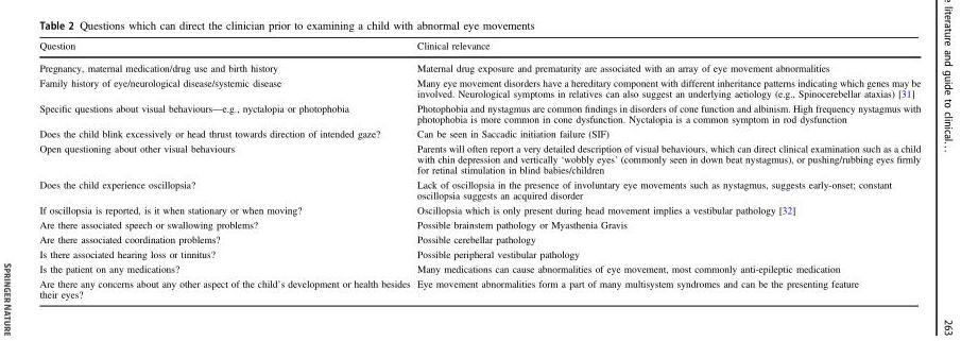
<table><thead><tr><td>Question</td><td>Clinical relevance</td></tr></thead><tbody><tr><td>Pregnancy, maternal medication/drug use and birth history</td><td>Maternal drug exposure and prematurity are associated with an array of eye movement abnormalities</td></tr><tr><td>Family history of eye/neurological disease/systemic disease</td><td>Many eye movement disorders have a hereditary component with different inheritance patterns indicating which genes may be involved. Neurological symptoms in relatives can also suggest an underlying aetiology (e.g., Spinocerebellar ataxias) [31]</td></tr><tr><td>Specific questions about visual behaviours—e.g., nyctalopia or photophobia</td><td>Photophobia and nystagmus are common findings in disorders of cone function and albinism. High frequency nystagmus with photophobia is more common in cone dysfunction. Nyctalopia is a common symptom in rod dysfunction</td></tr><tr><td>Does the child blink excessively or head thrust towards direction of intended gaze?</td><td>Can be seen in Saccadic initiation failure (SIF)</td></tr><tr><td>Open questioning about other visual behaviours</td><td>Parents will often report a very detailed description of visual behaviours, which can direct clinical examination such as a child with chin depression and vertically ‘wobbly eyes’ (commonly seen in down beat nystagmus), or pushing/rubbing eyes firmly for retinal stimulation in blind babies/children</td></tr><tr><td>Does the child experience oscillopsia?</td><td>Lack of oscillopsia in the presence of involuntary eye movements such as nystagmus, suggests early-onset; constant oscillopsia suggests an acquired disorder</td></tr><tr><td>If oscillopsia is reported, is it when stationary or when moving?</td><td>Oscillopsia which is only present during head movement implies a vestibular pathology [32]</td></tr><tr><td>Are there associated speech or swallowing problems?</td><td>Possible brainstem pathology or Myasthenia Gravis</td></tr><tr><td>Are there associated coordination problems?</td><td>Possible cerebellar pathology</td></tr><tr><td>Is there associated hearing loss or tinnitus?</td><td>Possible peripheral vestibular pathology</td></tr><tr><td>Is the patient on any medications?</td><td>Many medications can cause abnormalities of eye movement, most commonly anti-epileptic medication</td></tr><tr><td>Are there any concerns about any other aspect of the child’s development or health besides their eyes?</td><td>Eye movement abnormalities form a part of many multisystem syndromes and can be the presenting feature</td></tr></tbody></table>